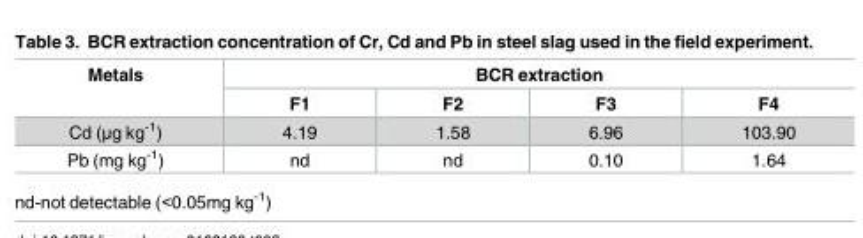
<table><thead><tr><td rowspan="2">Metals</td><td colspan="4">BCR extraction</td></tr><tr><td>F1</td><td>F2</td><td>F3</td><td>F4</td></tr></thead><tbody><tr><td>Cd (μg kg<sup>-1</sup>)</td><td>4.19</td><td>1.58</td><td>6.96</td><td>103.90</td></tr><tr><td>Pb (mg kg<sup>-1</sup>)</td><td>nd</td><td>nd</td><td>0.10</td><td>1.64</td></tr></tbody></table>